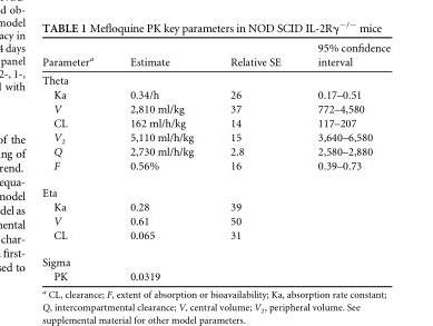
<table><thead><tr><td>Parameter<sup>a</sup></td><td>Estimate</td><td>Relative SE</td><td>95% confidence interval</td></tr></thead><tbody><tr><td colspan="4">Theta</td></tr><tr><td>Ka</td><td>0.34/h</td><td>26</td><td>0.17–0.51</td></tr><tr><td>V</td><td>2,810 ml/kg</td><td>37</td><td>772–4,580</td></tr><tr><td>CL</td><td>162 ml/h/kg</td><td>14</td><td>117–207</td></tr><tr><td>V<sub>2</sub></td><td>5,110 ml/h/kg</td><td>15</td><td>3,640–6,580</td></tr><tr><td>Q</td><td>2,730 ml/h/kg</td><td>2.8</td><td>2,580–2,880</td></tr><tr><td>F</td><td>0.56%</td><td>16</td><td>0.39–0.73</td></tr><tr><td colspan="4">Eta</td></tr><tr><td>Ka</td><td>0.28</td><td>39</td><td></td></tr><tr><td>V</td><td>0.61</td><td>50</td><td></td></tr><tr><td>CL</td><td>0.065</td><td>31</td><td></td></tr><tr><td colspan="4">Sigma</td></tr><tr><td>PK</td><td>0.0319</td><td></td><td></td></tr></tbody></table>